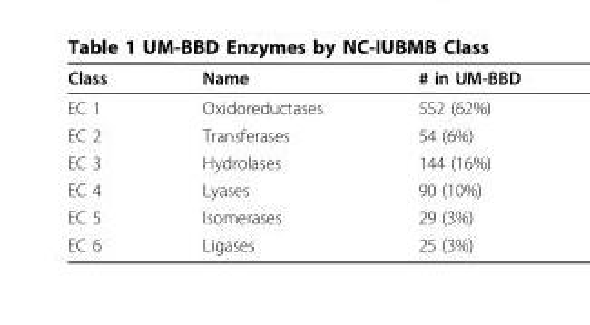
<table><thead><tr><td>Class</td><td>Name</td><td># in UM-BBD</td></tr></thead><tbody><tr><td>EC 1</td><td>Oxidoreductases</td><td>552 (62%)</td></tr><tr><td>EC 2</td><td>Transferases</td><td>54 (6%)</td></tr><tr><td>EC 3</td><td>Hydrolases</td><td>144 (16%)</td></tr><tr><td>EC 4</td><td>Lyases</td><td>90 (10%)</td></tr><tr><td>EC 5</td><td>Isomerases</td><td>29 (3%)</td></tr><tr><td>EC 6</td><td>Ligases</td><td>25 (3%)</td></tr></tbody></table>